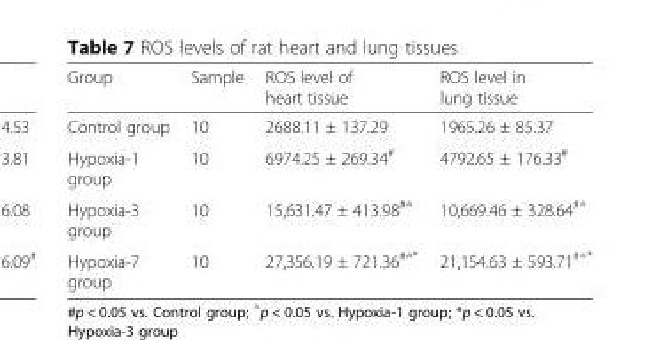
<table><thead><tr><td>Group</td><td>Sample</td><td>ROS level of heart tissue</td><td>ROS level in lung tissue</td></tr></thead><tbody><tr><td>Control group</td><td>10</td><td>2688.11 ± 137.29</td><td>1965.26 ± 85.37</td></tr><tr><td>Hypoxia-1 group</td><td>10</td><td>6974.25 ± 269.34<sup>#</sup></td><td>4792.65 ± 176.33<sup>#</sup></td></tr><tr><td>Hypoxia-3 group</td><td>10</td><td>15,631.47 ± 413.98<sup>#△</sup></td><td>10,669.46 ± 328.64<sup>#△</sup></td></tr><tr><td>Hypoxia-7 group</td><td>10</td><td>27,356.19 ± 721.36<sup>#△*</sup></td><td>21,154.63 ± 593.71<sup>#△*</sup></td></tr></tbody></table>